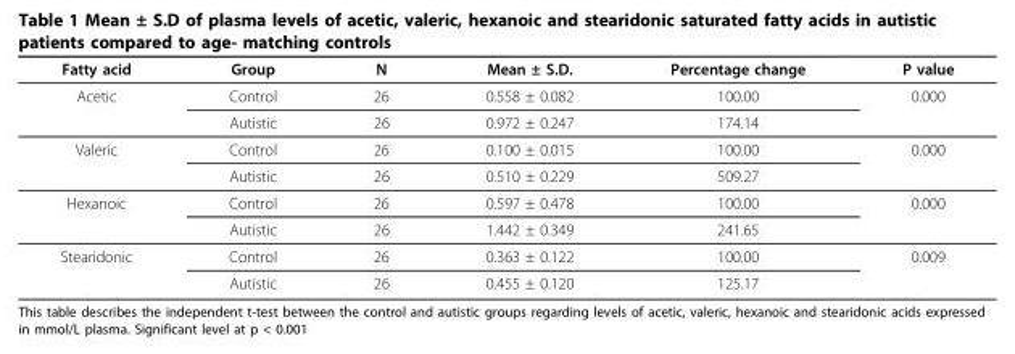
<table><thead><tr><td>Fatty acid</td><td>Group</td><td>N</td><td>Mean ± S.D.</td><td>Percentage change</td><td>P value</td></tr></thead><tbody><tr><td rowspan="2">Acetic</td><td>Control</td><td>26</td><td>0.558 ± 0.082</td><td>100.00</td><td>0.000</td></tr><tr><td>Autistic</td><td>26</td><td>0.972 ± 0.247</td><td>174.14</td><td></td></tr><tr><td rowspan="2">Valeric</td><td>Control</td><td>26</td><td>0.100 ± 0.015</td><td>100.00</td><td>0.000</td></tr><tr><td>Autistic</td><td>26</td><td>0.510 ± 0.229</td><td>509.27</td><td></td></tr><tr><td rowspan="2">Hexanoic</td><td>Control</td><td>26</td><td>0.597 ± 0.478</td><td>100.00</td><td>0.000</td></tr><tr><td>Autistic</td><td>26</td><td>1.442 ± 0.349</td><td>241.65</td><td></td></tr><tr><td rowspan="2">Stearidonic</td><td>Control</td><td>26</td><td>0.363 ± 0.122</td><td>100.00</td><td>0.009</td></tr><tr><td>Autistic</td><td>26</td><td>0.455 ± 0.120</td><td>125.17</td><td></td></tr></tbody></table>